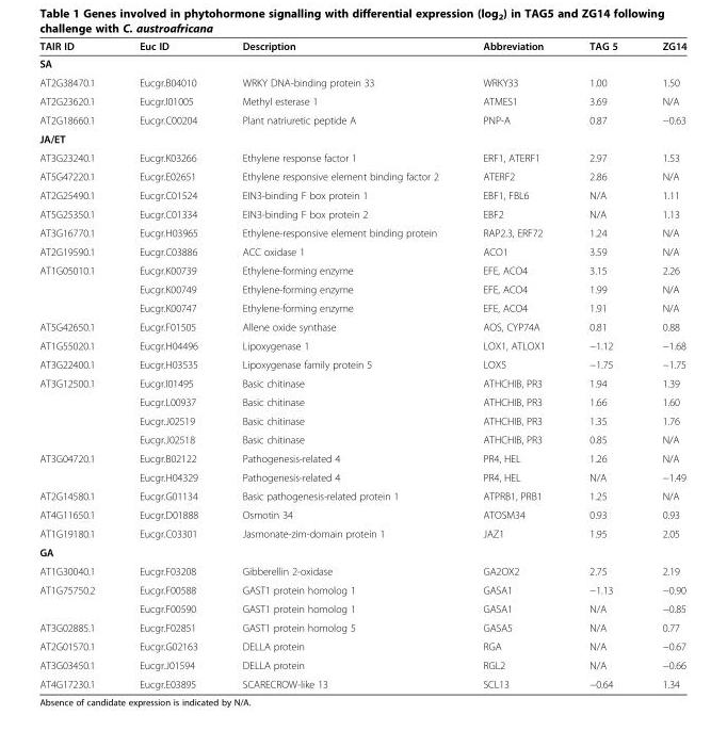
<table><thead><tr><td>TAIR ID</td><td>Euc ID</td><td>Description</td><td>Abbreviation</td><td>TAG 5</td><td>ZG14</td></tr></thead><tbody><tr><td colspan="6">SA</td></tr><tr><td>AT2G38470.1</td><td>Eucgr.B04010</td><td>WRKY DNA-binding protein 33</td><td>WRKY33</td><td>1.00</td><td>1.50</td></tr><tr><td>AT2G23620.1</td><td>Eucgr.I01005</td><td>Methyl esterase 1</td><td>ATMES1</td><td>3.69</td><td>N/A</td></tr><tr><td>AT2G18660.1</td><td>Eucgr.C00204</td><td>Plant natriuretic peptide A</td><td>PNP-A</td><td>0.87</td><td>−0.63</td></tr><tr><td colspan="6">JA/ET</td></tr><tr><td>AT3G23240.1</td><td>Eucgr.K03266</td><td>Ethylene response factor 1</td><td>ERF1, ATERF1</td><td>2.97</td><td>1.53</td></tr><tr><td>AT5G47220.1</td><td>Eucgr.E02651</td><td>Ethylene responsive element binding factor 2</td><td>ATERF2</td><td>2.86</td><td>N/A</td></tr><tr><td>AT2G25490.1</td><td>Eucgr.C01524</td><td>EIN3-binding F box protein 1</td><td>EBF1, FBL6</td><td>N/A</td><td>1.11</td></tr><tr><td>AT5G25350.1</td><td>Eucgr.C01334</td><td>EIN3-binding F box protein 2</td><td>EBF2</td><td>N/A</td><td>1.13</td></tr><tr><td>AT3G16770.1</td><td>Eucgr.H03965</td><td>Ethylene-responsive element binding protein</td><td>RAP2.3, ERF72</td><td>1.24</td><td>N/A</td></tr><tr><td>AT2G19590.1</td><td>Eucgr.C03886</td><td>ACC oxidase 1</td><td>ACO1</td><td>3.59</td><td>N/A</td></tr><tr><td rowspan="3">AT1G05010.1</td><td>Eucgr.K00739</td><td>Ethylene-forming enzyme</td><td>EFE, ACO4</td><td>3.15</td><td>2.26</td></tr><tr><td>Eucgr.K00749</td><td>Ethylene-forming enzyme</td><td>EFE, ACO4</td><td>1.99</td><td>N/A</td></tr><tr><td>Eucgr.K00747</td><td>Ethylene-forming enzyme</td><td>EFE, ACO4</td><td>1.91</td><td>N/A</td></tr><tr><td>AT5G42650.1</td><td>Eucgr.F01505</td><td>Allene oxide synthase</td><td>AOS, CYP74A</td><td>0.81</td><td>0.88</td></tr><tr><td>AT1G55020.1</td><td>Eucgr.H04496</td><td>Lipoxygenase 1</td><td>LOX1, ATLOX1</td><td>−1.12</td><td>−1.68</td></tr><tr><td>AT3G22400.1</td><td>Eucgr.H03535</td><td>Lipoxygenase family protein 5</td><td>LOX5</td><td>−1.75</td><td>−1.75</td></tr><tr><td rowspan="4">AT3G12500.1</td><td>Eucgr.I01495</td><td>Basic chitinase</td><td>ATHCHIB, PR3</td><td>1.94</td><td>1.39</td></tr><tr><td>Eucgr.L00937</td><td>Basic chitinase</td><td>ATHCHIB, PR3</td><td>1.66</td><td>1.60</td></tr><tr><td>Eucgr.J02519</td><td>Basic chitinase</td><td>ATHCHIB, PR3</td><td>1.35</td><td>1.76</td></tr><tr><td>Eucgr.J02518</td><td>Basic chitinase</td><td>ATHCHIB, PR3</td><td>0.85</td><td>N/A</td></tr><tr><td rowspan="2">AT3G04720.1</td><td>Eucgr.B02122</td><td>Pathogenesis-related 4</td><td>PR4, HEL</td><td>1.26</td><td>N/A</td></tr><tr><td>Eucgr.H04329</td><td>Pathogenesis-related 4</td><td>PR4, HEL</td><td>N/A</td><td>−1.49</td></tr><tr><td>AT2G14580.1</td><td>Eucgr.G01134</td><td>Basic pathogenesis-related protein 1</td><td>ATPRB1, PRB1</td><td>1.25</td><td>N/A</td></tr><tr><td>AT4G11650.1</td><td>Eucgr.D01888</td><td>Osmotin 34</td><td>ATOSM34</td><td>0.93</td><td>0.93</td></tr><tr><td>AT1G19180.1</td><td>Eucgr.C03301</td><td>Jasmonate-zim-domain protein 1</td><td>JAZ1</td><td>1.95</td><td>2.05</td></tr><tr><td colspan="6">GA</td></tr><tr><td>AT1G30040.1</td><td>Eucgr.F03208</td><td>Gibberellin 2-oxidase</td><td>GA2OX2</td><td>2.75</td><td>2.19</td></tr><tr><td rowspan="2">AT1G75750.2</td><td>Eucgr.F00588</td><td>GAST1 protein homolog 1</td><td>GASA1</td><td>−1.13</td><td>−0.90</td></tr><tr><td>Eucgr.F00590</td><td>GAST1 protein homolog 1</td><td>GASA1</td><td>N/A</td><td>−0.85</td></tr><tr><td>AT3G02885.1</td><td>Eucgr.F02851</td><td>GAST1 protein homolog 5</td><td>GASA5</td><td>N/A</td><td>0.77</td></tr><tr><td>AT2G01570.1</td><td>Eucgr.G02163</td><td>DELLA protein</td><td>RGA</td><td>N/A</td><td>−0.67</td></tr><tr><td>AT3G03450.1</td><td>Eucgr.J01594</td><td>DELLA protein</td><td>RGL2</td><td>N/A</td><td>−0.66</td></tr><tr><td>AT4G17230.1</td><td>Eucgr.E03895</td><td>SCARECROW-like 13</td><td>SCL13</td><td>−0.64</td><td>1.34</td></tr></tbody></table>